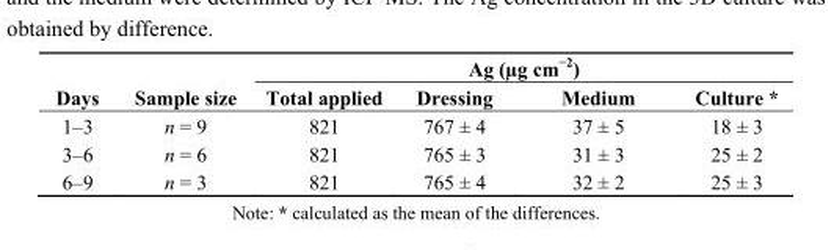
<table><thead><tr><td rowspan="2">Days</td><td rowspan="2">Sample size</td><td colspan="4">Ag (µg cm<sup>−2</sup>)</td></tr><tr><td>Total applied</td><td>Dressing</td><td>Medium</td><td>Culture *</td></tr></thead><tbody><tr><td>1–3</td><td>n = 9</td><td>821</td><td>767 ± 4</td><td>37 ± 5</td><td>18 ± 3</td></tr><tr><td>3–6</td><td>n = 6</td><td>821</td><td>765 ± 3</td><td>31 ± 3</td><td>25 ± 2</td></tr><tr><td>6–9</td><td>n = 3</td><td>821</td><td>765 ± 4</td><td>32 ± 2</td><td>25 ± 3</td></tr></tbody></table>